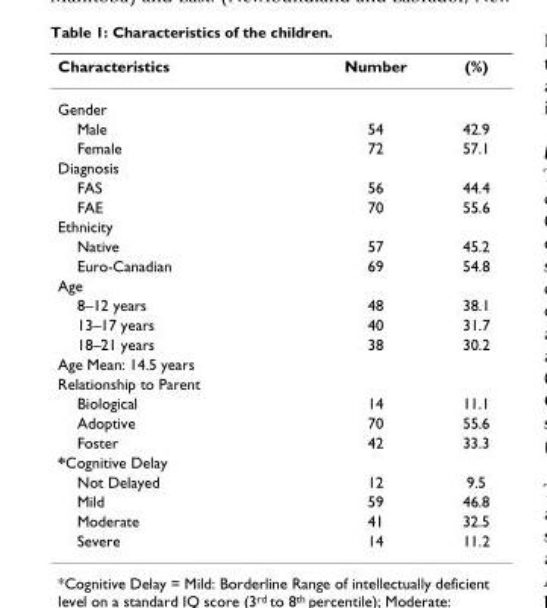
<table><thead><tr><td>Characteristics</td><td>Number</td><td>(%)</td></tr></thead><tbody><tr><td colspan="3">Gender</td></tr><tr><td>Male</td><td>54</td><td>42.9</td></tr><tr><td>Female</td><td>72</td><td>57.1</td></tr><tr><td colspan="3">Diagnosis</td></tr><tr><td>FAS</td><td>56</td><td>44.4</td></tr><tr><td>FAE</td><td>70</td><td>55.6</td></tr><tr><td colspan="3">Ethnicity</td></tr><tr><td>Native</td><td>57</td><td>45.2</td></tr><tr><td>Euro-Canadian</td><td>69</td><td>54.8</td></tr><tr><td colspan="3">Age</td></tr><tr><td>8–12 years</td><td>48</td><td>38.1</td></tr><tr><td>13–17 years</td><td>40</td><td>31.7</td></tr><tr><td>18–21 years</td><td>38</td><td>30.2</td></tr><tr><td colspan="3">Age Mean: 14.5 years</td></tr><tr><td colspan="3">Relationship to Parent</td></tr><tr><td>Biological</td><td>14</td><td>11.1</td></tr><tr><td>Adoptive</td><td>70</td><td>55.6</td></tr><tr><td>Foster</td><td>42</td><td>33.3</td></tr><tr><td colspan="3">*Cognitive Delay</td></tr><tr><td>Not Delayed</td><td>12</td><td>9.5</td></tr><tr><td>Mild</td><td>59</td><td>46.8</td></tr><tr><td>Moderate</td><td>41</td><td>32.5</td></tr><tr><td>Severe</td><td>14</td><td>11.2</td></tr></tbody></table>